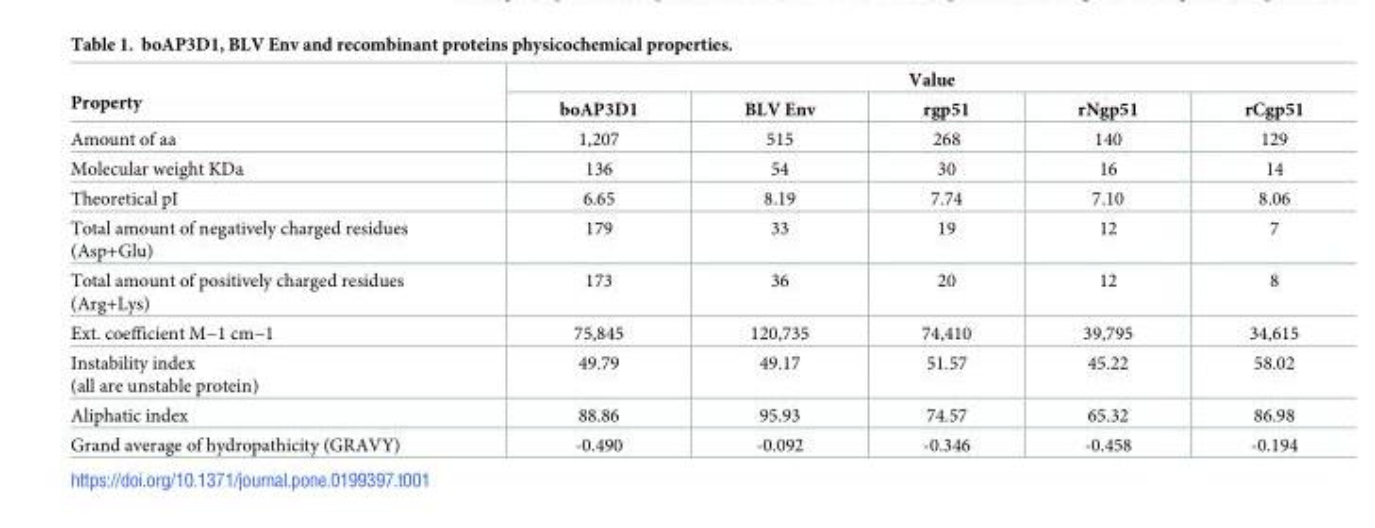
<table><thead><tr><td rowspan="2">Property</td><td colspan="5">Value</td></tr><tr><td>boAP3D1</td><td>BLV Env</td><td>rgp51</td><td>rNgp51</td><td>rCgp51</td></tr></thead><tbody><tr><td>Amount of aa</td><td>1,207</td><td>515</td><td>268</td><td>140</td><td>129</td></tr><tr><td>Molecular weight KDa</td><td>136</td><td>54</td><td>30</td><td>16</td><td>14</td></tr><tr><td>Theoretical pI</td><td>6.65</td><td>8.19</td><td>7.74</td><td>7.10</td><td>8.06</td></tr><tr><td>Total amount of negatively charged residues (Asp+Glu)</td><td>179</td><td>33</td><td>19</td><td>12</td><td>7</td></tr><tr><td>Total amount of positively charged residues (Arg+Lys)</td><td>173</td><td>36</td><td>20</td><td>12</td><td>8</td></tr><tr><td>Ext. coefficient M−1 cm−1</td><td>75,845</td><td>120,735</td><td>74,410</td><td>39,795</td><td>34,615</td></tr><tr><td>Instability index (all are unstable protein)</td><td>49.79</td><td>49.17</td><td>51.57</td><td>45.22</td><td>58.02</td></tr><tr><td>Aliphatic index</td><td>88.86</td><td>95.93</td><td>74.57</td><td>65.32</td><td>86.98</td></tr><tr><td>Grand average of hydropathicity (GRAVY)</td><td>-0.490</td><td>-0.092</td><td>-0.346</td><td>-0.458</td><td>-0.194</td></tr></tbody></table>